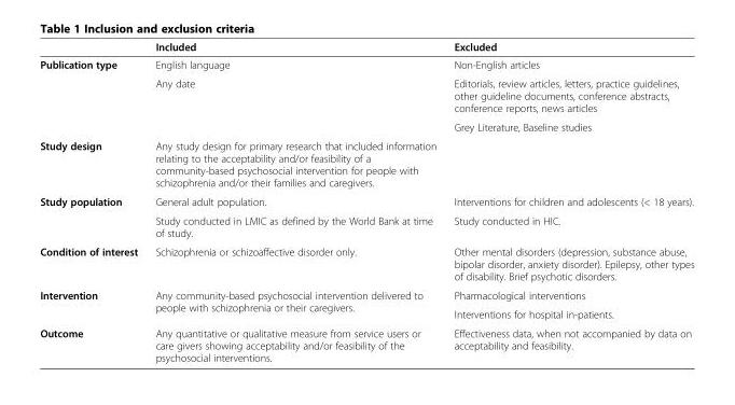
<table><thead><tr><td></td><td>Included</td><td>Excluded</td></tr></thead><tbody><tr><td rowspan="3">Publication type</td><td>English language</td><td>Non-English articles</td></tr><tr><td>Any date</td><td>Editorials, review articles, letters, practice guidelines, other guideline documents, conference abstracts, conference reports, news articles</td></tr><tr><td></td><td>Grey Literature, Baseline studies</td></tr><tr><td>Study design</td><td>Any study design for primary research that included information relating to the acceptability and/or feasibility of a community-based psychosocial intervention for people with schizophrenia and/or their families and caregivers.</td><td></td></tr><tr><td rowspan="2">Study population</td><td>General adult population.</td><td>Interventions for children and adolescents (&lt; 18 years).</td></tr><tr><td>Study conducted in LMIC as defined by the World Bank at time of study.</td><td>Study conducted in HIC.</td></tr><tr><td>Condition of interest</td><td>Schizophrenia or schizoaffective disorder only.</td><td>Other mental disorders (depression, substance abuse, bipolar disorder, anxiety disorder). Epilepsy, other types of disability. Brief psychotic disorders.</td></tr><tr><td rowspan="2">Intervention</td><td rowspan="2">Any community-based psychosocial intervention delivered to people with schizophrenia or their caregivers.</td><td>Pharmacological interventions</td></tr><tr><td>Interventions for hospital in-patients.</td></tr><tr><td>Outcome</td><td>Any quantitative or qualitative measure from service users or care givers showing acceptability and/or feasibility of the psychosocial interventions.</td><td>Effectiveness data, when not accompanied by data on acceptability and feasibility.</td></tr></tbody></table>